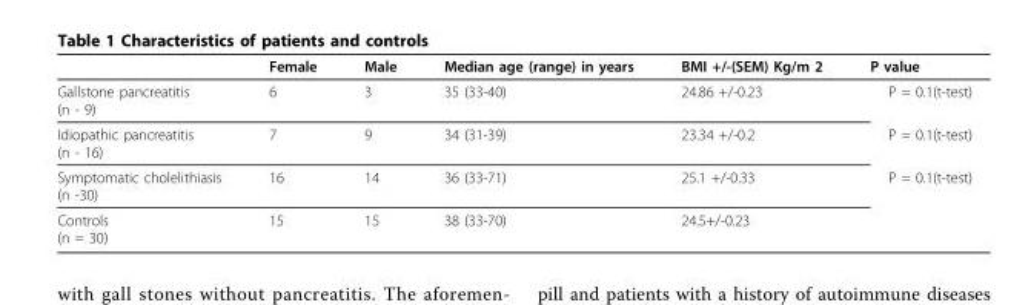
<table><thead><tr><td></td><td>Female</td><td>Male</td><td>Median age (range) in years</td><td>BMI +/-(SEM) Kg/m 2</td><td>P value</td></tr></thead><tbody><tr><td>Gallstone pancreatitis (n - 9)</td><td>6</td><td>3</td><td>35 (33-40)</td><td>24.86 +/-0.23</td><td>P = 0.1(t-test)</td></tr><tr><td>Idiopathic pancreatitis (n - 16)</td><td>7</td><td>9</td><td>34 (31-39)</td><td>23.34 +/-0.2</td><td>P = 0.1(t-test)</td></tr><tr><td>Symptomatic cholelithiasis (n -30)</td><td>16</td><td>14</td><td>36 (33-71)</td><td>25.1 +/-0.33</td><td>P = 0.1(t-test)</td></tr><tr><td>Controls (n = 30)</td><td>15</td><td>15</td><td>38 (33-70)</td><td>24.5+/-0.23</td><td></td></tr></tbody></table>